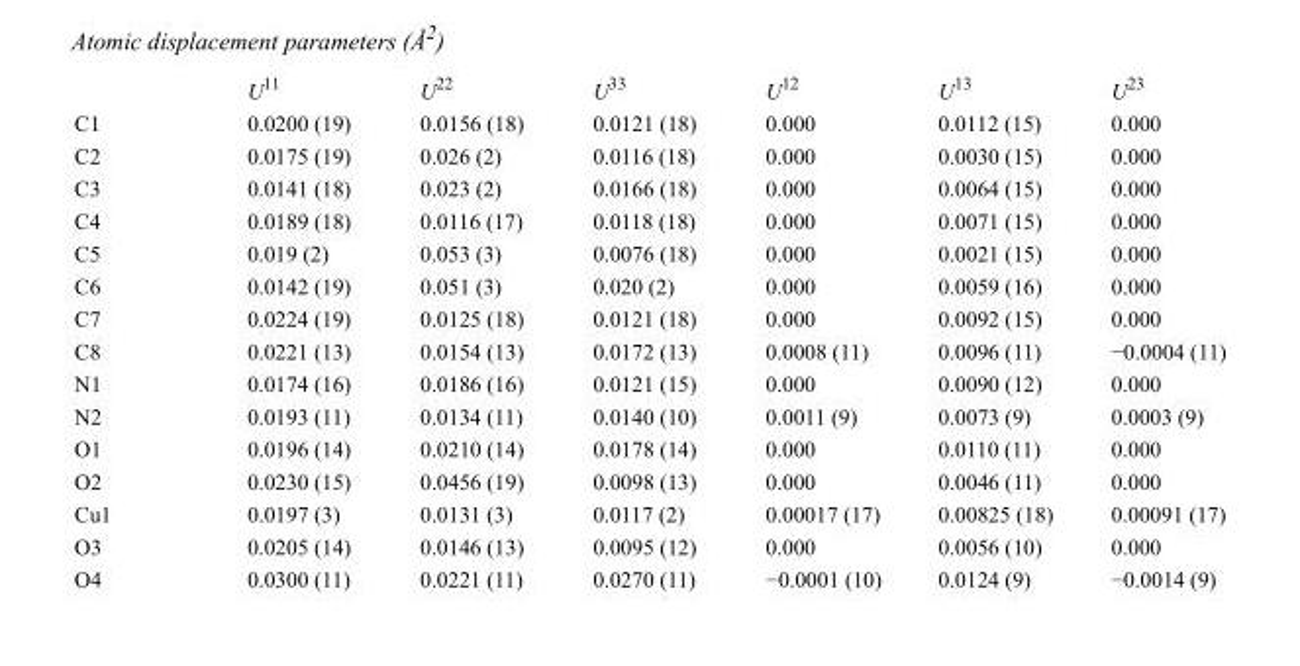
<table><thead><tr><td></td><td>U<sup>11</sup></td><td>U<sup>22</sup></td><td>U<sup>33</sup></td><td>U<sup>12</sup></td><td>U<sup>13</sup></td><td>U<sup>23</sup></td></tr></thead><tbody><tr><td>C1</td><td>0.0200 (19)</td><td>0.0156 (18)</td><td>0.0121 (18)</td><td>0.000</td><td>0.0112 (15)</td><td>0.000</td></tr><tr><td>C2</td><td>0.0175 (19)</td><td>0.026 (2)</td><td>0.0116 (18)</td><td>0.000</td><td>0.0030 (15)</td><td>0.000</td></tr><tr><td>C3</td><td>0.0141 (18)</td><td>0.023 (2)</td><td>0.0166 (18)</td><td>0.000</td><td>0.0064 (15)</td><td>0.000</td></tr><tr><td>C4</td><td>0.0189 (18)</td><td>0.0116 (17)</td><td>0.0118 (18)</td><td>0.000</td><td>0.0071 (15)</td><td>0.000</td></tr><tr><td>C5</td><td>0.019 (2)</td><td>0.053 (3)</td><td>0.0076 (18)</td><td>0.000</td><td>0.0021 (15)</td><td>0.000</td></tr><tr><td>C6</td><td>0.0142 (19)</td><td>0.051 (3)</td><td>0.020 (2)</td><td>0.000</td><td>0.0059 (16)</td><td>0.000</td></tr><tr><td>C7</td><td>0.0224 (19)</td><td>0.0125 (18)</td><td>0.0121 (18)</td><td>0.000</td><td>0.0092 (15)</td><td>0.000</td></tr><tr><td>C8</td><td>0.0221 (13)</td><td>0.0154 (13)</td><td>0.0172 (13)</td><td>0.0008 (11)</td><td>0.0096 (11)</td><td>−0.0004 (11)</td></tr><tr><td>N1</td><td>0.0174 (16)</td><td>0.0186 (16)</td><td>0.0121 (15)</td><td>0.000</td><td>0.0090 (12)</td><td>0.000</td></tr><tr><td>N2</td><td>0.0193 (11)</td><td>0.0134 (11)</td><td>0.0140 (10)</td><td>0.0011 (9)</td><td>0.0073 (9)</td><td>0.0003 (9)</td></tr><tr><td>O1</td><td>0.0196 (14)</td><td>0.0210 (14)</td><td>0.0178 (14)</td><td>0.000</td><td>0.0110 (11)</td><td>0.000</td></tr><tr><td>O2</td><td>0.0230 (15)</td><td>0.0456 (19)</td><td>0.0098 (13)</td><td>0.000</td><td>0.0046 (11)</td><td>0.000</td></tr><tr><td>Cu1</td><td>0.0197 (3)</td><td>0.0131 (3)</td><td>0.0117 (2)</td><td>0.00017 (17)</td><td>0.00825 (18)</td><td>0.00091 (17)</td></tr><tr><td>O3</td><td>0.0205 (14)</td><td>0.0146 (13)</td><td>0.0095 (12)</td><td>0.000</td><td>0.0056 (10)</td><td>0.000</td></tr><tr><td>O4</td><td>0.0300 (11)</td><td>0.0221 (11)</td><td>0.0270 (11)</td><td>−0.0001 (10)</td><td>0.0124 (9)</td><td>−0.0014 (9)</td></tr></tbody></table>